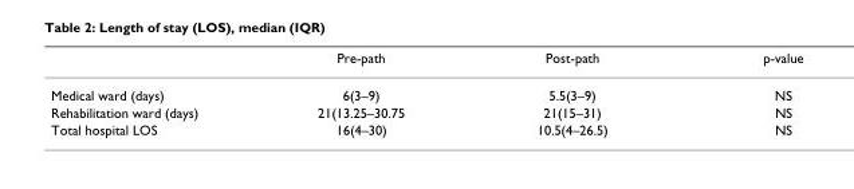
<table><thead><tr><td></td><td>Pre-path</td><td>Post-path</td><td>p-value</td></tr></thead><tbody><tr><td>Medical ward (days)</td><td>6(3–9)</td><td>5.5(3–9)</td><td>NS</td></tr><tr><td>Rehabilitation ward (days)</td><td>21(13.25–30.75</td><td>21(15–31)</td><td>NS</td></tr><tr><td>Total hospital LOS</td><td>16(4–30)</td><td>10.5(4–26.5)</td><td>NS</td></tr></tbody></table>